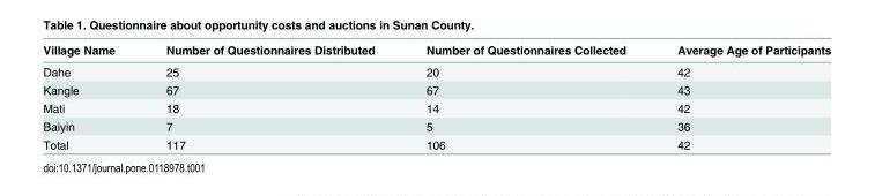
<table><thead><tr><td>Village Name</td><td>Number of Questionnaires Distributed</td><td>Number of Questionnaires Collected</td><td>Average Age of Participants</td></tr></thead><tbody><tr><td>Dahe</td><td>25</td><td>20</td><td>42</td></tr><tr><td>Kangle</td><td>67</td><td>67</td><td>43</td></tr><tr><td>Mati</td><td>18</td><td>14</td><td>42</td></tr><tr><td>Baiyin</td><td>7</td><td>5</td><td>36</td></tr><tr><td>Total</td><td>117</td><td>106</td><td>42</td></tr></tbody></table>